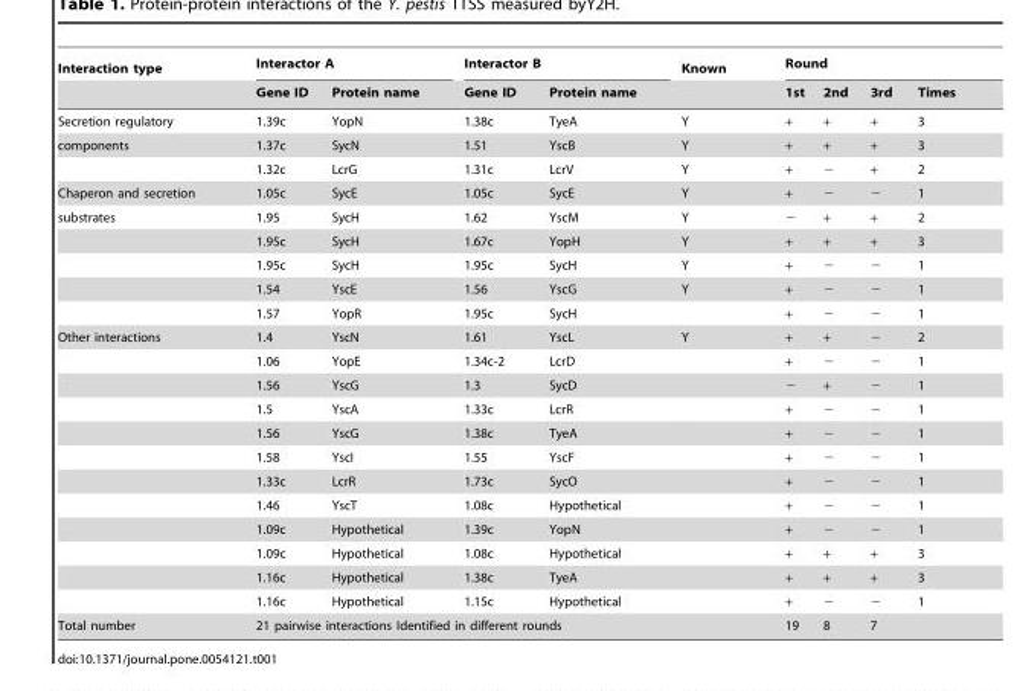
<table><thead><tr><td rowspan="2">Interaction type</td><td colspan="2">Interactor A</td><td colspan="2">Interactor B</td><td rowspan="2">Known</td><td colspan="4">Round</td></tr><tr><td>Gene ID</td><td>Protein name</td><td>Gene ID</td><td>Protein name</td><td>1st</td><td>2nd</td><td>3rd</td><td>Times</td></tr></thead><tbody><tr><td>Secretion regulatory</td><td>1.39c</td><td>YopN</td><td>1.38c</td><td>TyeA</td><td>Y</td><td>+</td><td>+</td><td>+</td><td>3</td></tr><tr><td rowspan="2">components</td><td>1.37c</td><td>SycN</td><td>1.51</td><td>YscB</td><td>Y</td><td>+</td><td>+</td><td>+</td><td>3</td></tr><tr><td>1.32c</td><td>LcrG</td><td>1.31c</td><td>LcrV</td><td>Y</td><td>+</td><td>−</td><td>+</td><td>2</td></tr><tr><td>Chaperon and secretion</td><td>1.05c</td><td>SycE</td><td>1.05c</td><td>SycE</td><td>Y</td><td>+</td><td>−</td><td>−</td><td>1</td></tr><tr><td rowspan="5">substrates</td><td>1.95</td><td>SycH</td><td>1.62</td><td>YscM</td><td>Y</td><td>−</td><td>+</td><td>+</td><td>2</td></tr><tr><td>1.95c</td><td>SycH</td><td>1.67c</td><td>YopH</td><td>Y</td><td>+</td><td>+</td><td>+</td><td>3</td></tr><tr><td>1.95c</td><td>SycH</td><td>1.95c</td><td>SycH</td><td>Y</td><td>+</td><td>−</td><td>−</td><td>1</td></tr><tr><td>1.54</td><td>YscE</td><td>1.56</td><td>YscG</td><td>Y</td><td>+</td><td>−</td><td>−</td><td>1</td></tr><tr><td>1.57</td><td>YopR</td><td>1.95c</td><td>SycH</td><td></td><td>+</td><td>−</td><td>−</td><td>1</td></tr><tr><td rowspan="12">Other interactions</td><td>1.4</td><td>YscN</td><td>1.61</td><td>YscL</td><td>Y</td><td>+</td><td>+</td><td>−</td><td>2</td></tr><tr><td>1.06</td><td>YopE</td><td>1.34c-2</td><td>LcrD</td><td></td><td>+</td><td>−</td><td>−</td><td>1</td></tr><tr><td>1.56</td><td>YscG</td><td>1.3</td><td>SycD</td><td></td><td>−</td><td>+</td><td>−</td><td>1</td></tr><tr><td>1.5</td><td>YscA</td><td>1.33c</td><td>LcrR</td><td></td><td>+</td><td>−</td><td>−</td><td>1</td></tr><tr><td>1.56</td><td>YscG</td><td>1.38c</td><td>TyeA</td><td></td><td>+</td><td>−</td><td>−</td><td>1</td></tr><tr><td>1.58</td><td>YscI</td><td>1.55</td><td>YscF</td><td></td><td>+</td><td>−</td><td>−</td><td>1</td></tr><tr><td>1.33c</td><td>LcrR</td><td>1.73c</td><td>SycO</td><td></td><td>+</td><td>−</td><td>−</td><td>1</td></tr><tr><td>1.46</td><td>YscT</td><td>1.08c</td><td>Hypothetical</td><td></td><td>+</td><td>−</td><td>−</td><td>1</td></tr><tr><td>1.09c</td><td>Hypothetical</td><td>1.39c</td><td>YopN</td><td></td><td>+</td><td>−</td><td>−</td><td>1</td></tr><tr><td>1.09c</td><td>Hypothetical</td><td>1.08c</td><td>Hypothetical</td><td></td><td>+</td><td>+</td><td>+</td><td>3</td></tr><tr><td>1.16c</td><td>Hypothetical</td><td>1.38c</td><td>TyeA</td><td></td><td>+</td><td>+</td><td>+</td><td>3</td></tr><tr><td>1.16c</td><td>Hypothetical</td><td>1.15c</td><td>Hypothetical</td><td></td><td>+</td><td>−</td><td>−</td><td>1</td></tr><tr><td>Total number</td><td colspan="5">21 pairwise interactions Identified in different rounds</td><td>19</td><td>8</td><td>7</td><td></td></tr></tbody></table>